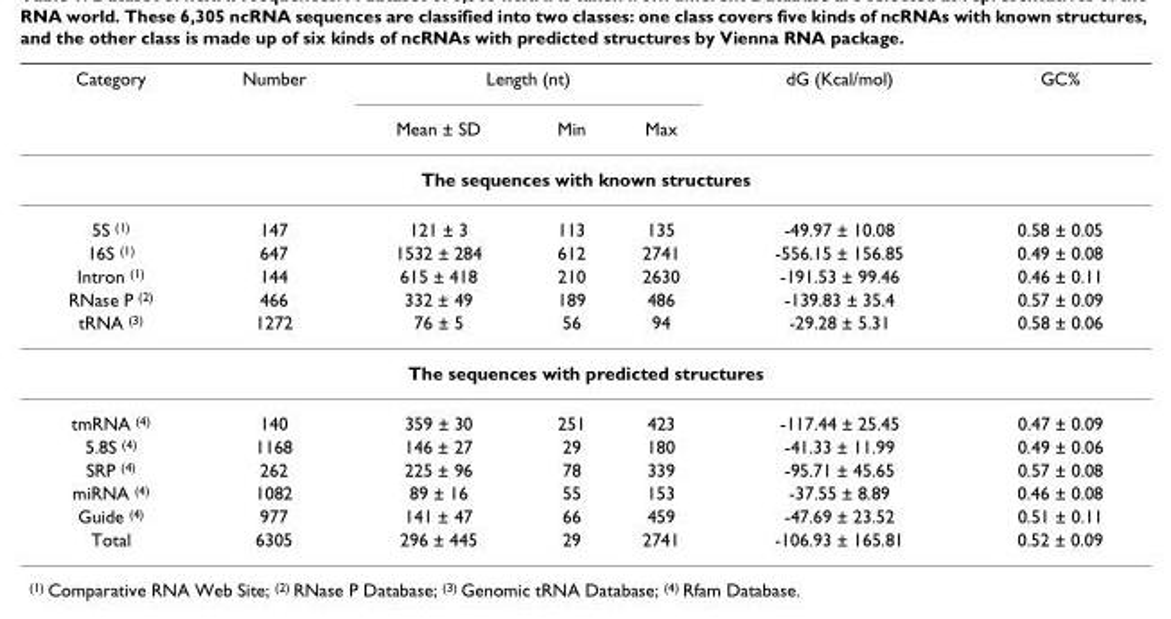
<table><thead><tr><td rowspan="2">Category</td><td rowspan="2">Number</td><td colspan="3">Length (nt)</td><td rowspan="2">dG (Kcal/mol)</td><td rowspan="2">GC%</td></tr><tr><td>Mean ± SD</td><td>Min</td><td>Max</td></tr></thead><tbody><tr><td colspan="7">The sequences with known structures</td></tr><tr><td>5S <sup>(1)</sup></td><td>147</td><td>121 ± 3</td><td>113</td><td>135</td><td>-49.97 ± 10.08</td><td>0.58 ± 0.05</td></tr><tr><td>16S <sup>(1)</sup></td><td>647</td><td>1532 ± 284</td><td>612</td><td>2741</td><td>-556.15 ± 156.85</td><td>0.49 ± 0.08</td></tr><tr><td>Intron <sup>(1)</sup></td><td>144</td><td>615 ± 418</td><td>210</td><td>2630</td><td>-191.53 ± 99.46</td><td>0.46 ± 0.11</td></tr><tr><td>RNase P <sup>(2)</sup></td><td>466</td><td>332 ± 49</td><td>189</td><td>486</td><td>-139.83 ± 35.4</td><td>0.57 ± 0.09</td></tr><tr><td>tRNA <sup>(3)</sup></td><td>1272</td><td>76 ± 5</td><td>56</td><td>94</td><td>-29.28 ± 5.31</td><td>0.58 ± 0.06</td></tr><tr><td colspan="7">The sequences with predicted structures</td></tr><tr><td>tmRNA <sup>(4)</sup></td><td>140</td><td>359 ± 30</td><td>251</td><td>423</td><td>-117.44 ± 25.45</td><td>0.47 ± 0.09</td></tr><tr><td>5.8S <sup>(4)</sup></td><td>1168</td><td>146 ± 27</td><td>29</td><td>180</td><td>-41.33 ± 11.99</td><td>0.49 ± 0.06</td></tr><tr><td>SRP <sup>(4)</sup></td><td>262</td><td>225 ± 96</td><td>78</td><td>339</td><td>-95.71 ± 45.65</td><td>0.57 ± 0.08</td></tr><tr><td>miRNA <sup>(4)</sup></td><td>1082</td><td>89 ± 16</td><td>55</td><td>153</td><td>-37.55 ± 8.89</td><td>0.46 ± 0.08</td></tr><tr><td>Guide <sup>(4)</sup></td><td>977</td><td>141 ± 47</td><td>66</td><td>459</td><td>-47.69 ± 23.52</td><td>0.51 ± 0.11</td></tr><tr><td>Total</td><td>6305</td><td>296 ± 445</td><td>29</td><td>2741</td><td>-106.93 ± 165.81</td><td>0.52 ± 0.09</td></tr></tbody></table>